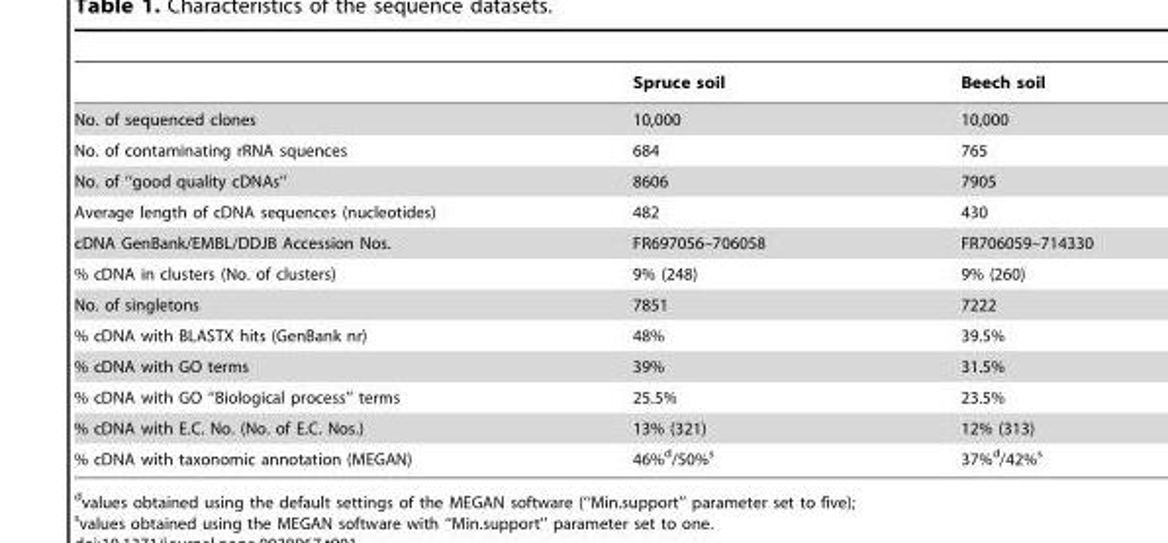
<table><thead><tr><td></td><td>Spruce soil</td><td>Beech soil</td></tr></thead><tbody><tr><td>No. of sequenced clones</td><td>10,000</td><td>10,000</td></tr><tr><td>No. of contaminating rRNA squences</td><td>684</td><td>765</td></tr><tr><td>No. of ‘‘good quality cDNAs’’</td><td>8606</td><td>7905</td></tr><tr><td>Average length of cDNA sequences (nucleotides)</td><td>482</td><td>430</td></tr><tr><td>cDNA GenBank/EMBL/DDJB Accession Nos.</td><td>FR697056–706058</td><td>FR706059–714330</td></tr><tr><td>% cDNA in clusters (No. of clusters)</td><td>9% (248)</td><td>9% (260)</td></tr><tr><td>No. of singletons</td><td>7851</td><td>7222</td></tr><tr><td>% cDNA with BLASTX hits (GenBank nr)</td><td>48%</td><td>39.5%</td></tr><tr><td>% cDNA with GO terms</td><td>39%</td><td>31.5%</td></tr><tr><td>% cDNA with GO ‘‘Biological process’’ terms</td><td>25.5%</td><td>23.5%</td></tr><tr><td>% cDNA with E.C. No. (No. of E.C. Nos.)</td><td>13% (321)</td><td>12% (313)</td></tr><tr><td>% cDNA with taxonomic annotation (MEGAN)</td><td>46%<sup>d</sup>/50%<sup>s</sup></td><td>37%<sup>d</sup>/42%<sup>s</sup></td></tr></tbody></table>